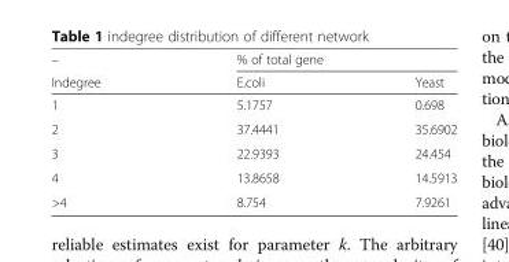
<table><thead><tr><td rowspan="2">– Indegree</td><td colspan="2">% of total gene</td></tr><tr><td>E.coli</td><td>Yeast</td></tr></thead><tbody><tr><td>1</td><td>5.1757</td><td>0.698</td></tr><tr><td>2</td><td>37.4441</td><td>35.6902</td></tr><tr><td>3</td><td>22.9393</td><td>24.454</td></tr><tr><td>4</td><td>13.8658</td><td>14.5913</td></tr><tr><td>&gt;4</td><td>8.754</td><td>7.9261</td></tr></tbody></table>